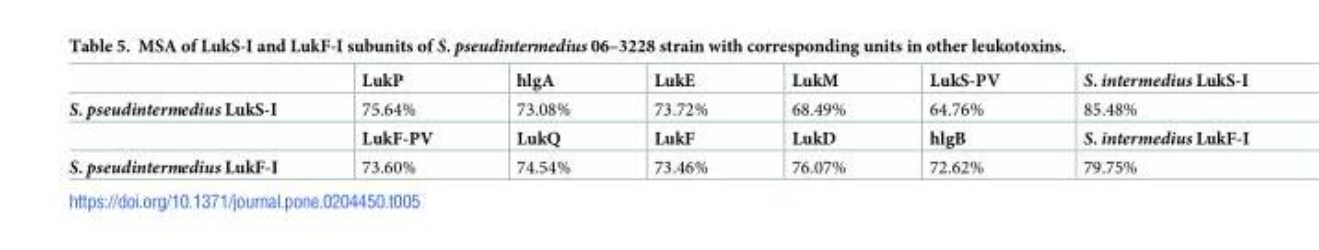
<table><thead><tr><td></td><td>LukP</td><td>hlgA</td><td>LukE</td><td>LukM</td><td>LukS-PV</td><td>S. intermedius LukS-I</td></tr></thead><tbody><tr><td rowspan="2">S. pseudintermedius LukS-I</td><td>75.64%</td><td>73.08%</td><td>73.72%</td><td>68.49%</td><td>64.76%</td><td>85.48%</td></tr><tr><td>LukF-PV</td><td>LukQ</td><td>LukF</td><td>LukD</td><td>hlgB</td><td>S. intermedius LukF-I</td></tr><tr><td>S. pseudintermedius LukF-I</td><td>73.60%</td><td>74.54%</td><td>73.46%</td><td>76.07%</td><td>72.62%</td><td>79.75%</td></tr></tbody></table>